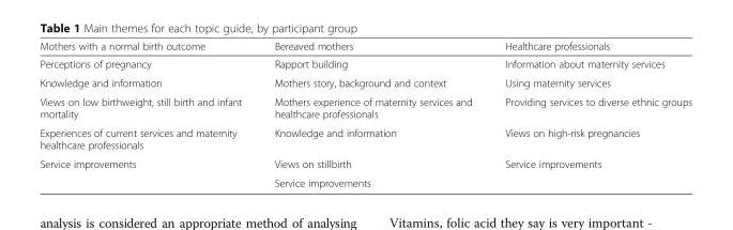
<table><thead><tr><td>Mothers with a normal birth outcome</td><td>Bereaved mothers</td><td>Healthcare professionals</td></tr></thead><tbody><tr><td>Perceptions of pregnancy</td><td>Rapport building</td><td>Information about maternity services</td></tr><tr><td>Knowledge and information</td><td>Mothers story, background and context</td><td>Using maternity services</td></tr><tr><td>Views on low birthweight, still birth and infant mortality</td><td>Mothers experience of maternity services and healthcare professionals</td><td>Providing services to diverse ethnic groups</td></tr><tr><td>Experiences of current services and maternity healthcare professionals</td><td>Knowledge and information</td><td>Views on high-risk pregnancies</td></tr><tr><td rowspan="2">Service improvements</td><td>Views on stillbirth</td><td rowspan="2">Service improvements</td></tr><tr><td>Service improvements</td></tr></tbody></table>